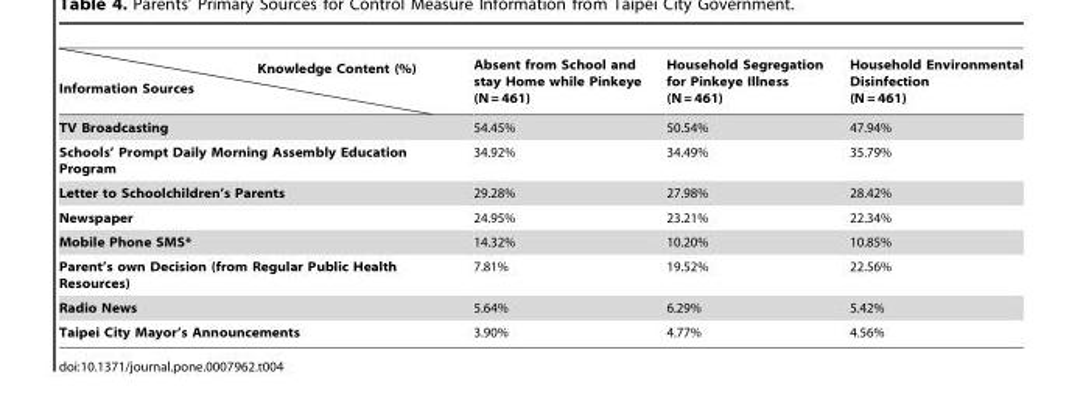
<table><thead><tr><td>Information Sources Knowledge Content (%)</td><td>Absent from School and stay Home while Pinkeye (N = 461)</td><td>Household Segregation for Pinkeye Illness (N = 461)</td><td>Household Environmental Disinfection (N = 461)</td></tr></thead><tbody><tr><td>TV Broadcasting</td><td>54.45%</td><td>50.54%</td><td>47.94%</td></tr><tr><td>Schools’ Prompt Daily Morning Assembly Education Program</td><td>34.92%</td><td>34.49%</td><td>35.79%</td></tr><tr><td>Letter to Schoolchildren’s Parents</td><td>29.28%</td><td>27.98%</td><td>28.42%</td></tr><tr><td>Newspaper</td><td>24.95%</td><td>23.21%</td><td>22.34%</td></tr><tr><td>Mobile Phone SMS*</td><td>14.32%</td><td>10.20%</td><td>10.85%</td></tr><tr><td>Parent’s own Decision (from Regular Public Health Resources)</td><td>7.81%</td><td>19.52%</td><td>22.56%</td></tr><tr><td>Radio News</td><td>5.64%</td><td>6.29%</td><td>5.42%</td></tr><tr><td>Taipei City Mayor’s Announcements</td><td>3.90%</td><td>4.77%</td><td>4.56%</td></tr></tbody></table>